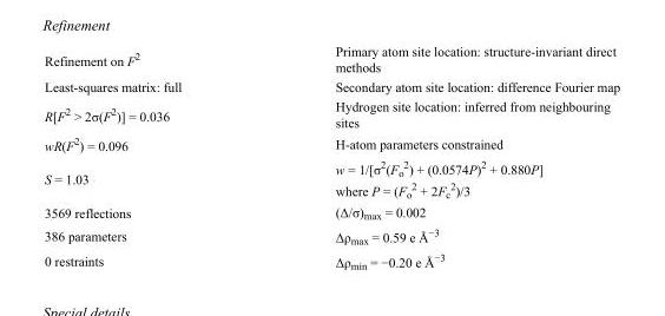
<table><tbody><tr><td>Refinement on F<sup>2</sup></td><td>Primary atom site location: structure-invariant direct methods</td></tr><tr><td>Least-squares matrix: full</td><td>Secondary atom site location: difference Fourier map</td></tr><tr><td>R[F<sup>2</sup> &gt; 2σ(F<sup>2</sup>)] = 0.036</td><td>Hydrogen site location: inferred from neighbouring sites</td></tr><tr><td>wR(F<sup>2</sup>) = 0.096</td><td>H-atom parameters constrained</td></tr><tr><td>S = 1.03</td><td>w = 1/[σ<sup>2</sup>(F<sub>o</sub> <sup>2</sup>) + (0.0574P)<sup>2</sup> + 0.880P] where P = (F<sub>o</sub> <sup>2</sup> + 2F<sub>c</sub> <sup>2</sup>)/3</td></tr><tr><td>3569 reflections</td><td>(Δ/σ)<sub>max</sub> = 0.002</td></tr><tr><td>386 parameters</td><td>Δρ<sub>max</sub> = 0.59 e Å<sup>−3</sup></td></tr><tr><td>0 restraints</td><td>Δρmin = −0.20 e Å−3</td></tr></tbody></table>